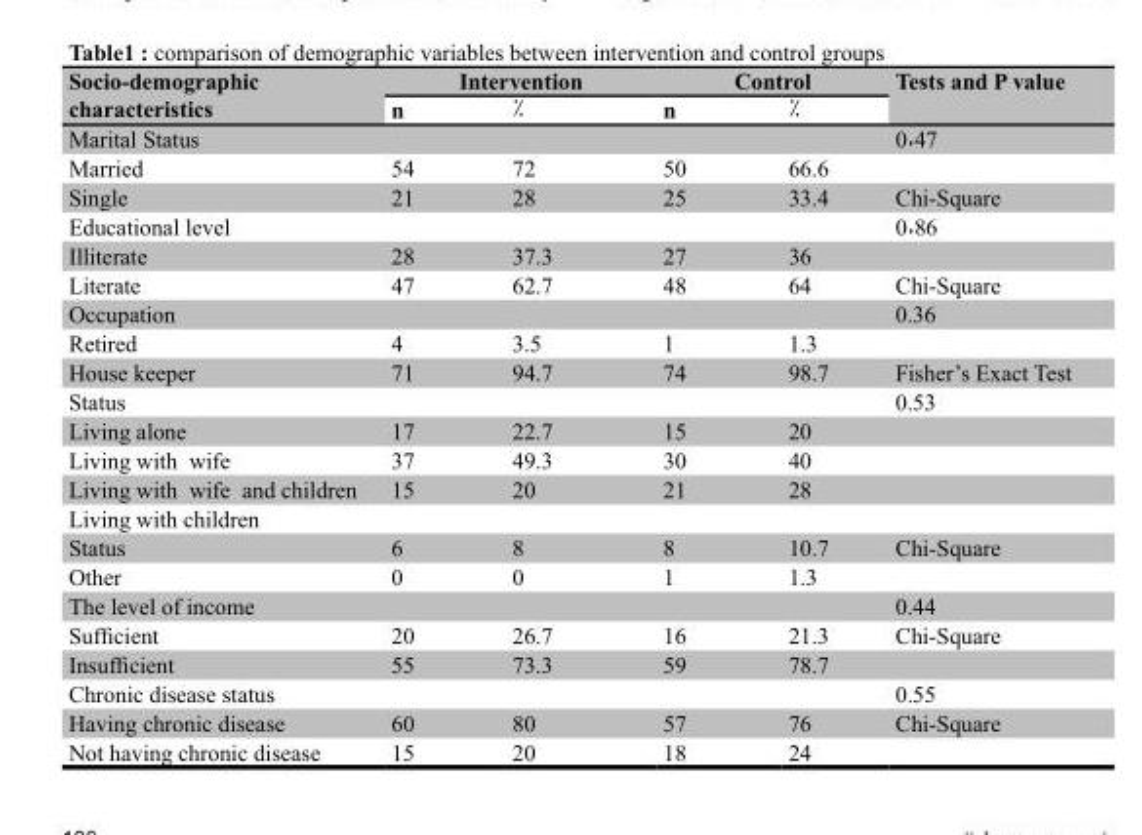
<table><thead><tr><td rowspan="2">Socio-demographic characteristics</td><td colspan="2">Intervention</td><td colspan="2">Control</td><td rowspan="2">Tests and P value</td></tr><tr><td>n</td><td>%</td><td>n</td><td>%</td></tr></thead><tbody><tr><td>Marital Status</td><td></td><td></td><td></td><td></td><td>0.47</td></tr><tr><td>Married</td><td>54</td><td>72</td><td>50</td><td>66.6</td><td></td></tr><tr><td>Single</td><td>21</td><td>28</td><td>25</td><td>33.4</td><td>Chi-Square</td></tr><tr><td>Educational level</td><td></td><td></td><td></td><td></td><td>0.86</td></tr><tr><td>Illiterate</td><td>28</td><td>37.3</td><td>27</td><td>36</td><td></td></tr><tr><td>Literate</td><td>47</td><td>62.7</td><td>48</td><td>64</td><td>Chi-Square</td></tr><tr><td>Occupation</td><td></td><td></td><td></td><td></td><td>0.36</td></tr><tr><td>Retired</td><td>4</td><td>3.5</td><td>1</td><td>1.3</td><td></td></tr><tr><td>House keeper</td><td>71</td><td>94.7</td><td>74</td><td>98.7</td><td>Fisher’s Exact Test</td></tr><tr><td>Status</td><td></td><td></td><td></td><td></td><td>0.53</td></tr><tr><td>Living alone</td><td>17</td><td>22.7</td><td>15</td><td>20</td><td></td></tr><tr><td>Living with wife</td><td>37</td><td>49.3</td><td>30</td><td>40</td><td></td></tr><tr><td>Living with wife and children</td><td>15</td><td>20</td><td>21</td><td>28</td><td></td></tr><tr><td colspan="6">Living with children</td></tr><tr><td>Status</td><td>6</td><td>8</td><td>8</td><td>10.7</td><td>Chi-Square</td></tr><tr><td>Other</td><td>0</td><td>0</td><td>1</td><td>1.3</td><td></td></tr><tr><td>The level of income</td><td></td><td></td><td></td><td></td><td>0.44</td></tr><tr><td>Sufficient</td><td>20</td><td>26.7</td><td>16</td><td>21.3</td><td>Chi-Square</td></tr><tr><td>Insufficient</td><td>55</td><td>73.3</td><td>59</td><td>78.7</td><td></td></tr><tr><td>Chronic disease status</td><td></td><td></td><td></td><td></td><td>0.55</td></tr><tr><td>Having chronic disease</td><td>60</td><td>80</td><td>57</td><td>76</td><td>Chi-Square</td></tr><tr><td>Not having chronic disease</td><td>15</td><td>20</td><td>18</td><td>24</td><td></td></tr></tbody></table>